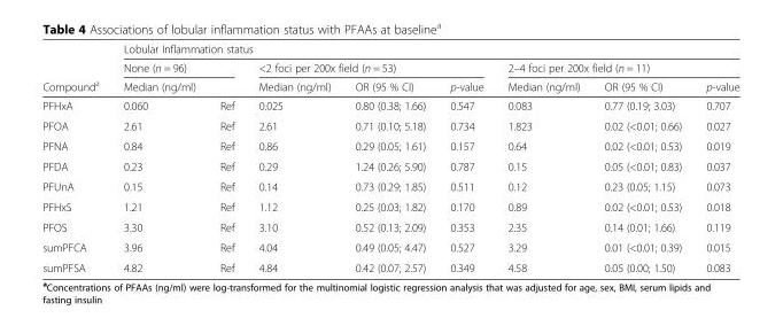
<table><thead><tr><td rowspan="3">Compound<sup>a</sup></td><td colspan="8">Lobular Inflammation status</td></tr><tr><td colspan="2">None (n = 96)</td><td colspan="3">&lt;2 foci per 200x field (n = 53)</td><td colspan="3">2–4 foci per 200x field (n = 11)</td></tr><tr><td>Median (ng/ml)</td><td></td><td>Median (ng/ml)</td><td>OR (95 % CI)</td><td>p-value</td><td>Median (ng/ml)</td><td>OR (95 % CI)</td><td>p-value</td></tr></thead><tbody><tr><td>PFHxA</td><td>0.060</td><td>Ref</td><td>0.025</td><td>0.80 (0.38; 1.66)</td><td>0.547</td><td>0.083</td><td>0.77 (0.19; 3.03)</td><td>0.707</td></tr><tr><td>PFOA</td><td>2.61</td><td>Ref</td><td>2.61</td><td>0.71 (0.10; 5.18)</td><td>0.734</td><td>1.823</td><td>0.02 (&lt;0.01; 0.66)</td><td>0.027</td></tr><tr><td>PFNA</td><td>0.84</td><td>Ref</td><td>0.86</td><td>0.29 (0.05; 1.61)</td><td>0.157</td><td>0.64</td><td>0.02 (&lt;0.01; 0.53)</td><td>0.019</td></tr><tr><td>PFDA</td><td>0.23</td><td>Ref</td><td>0.29</td><td>1.24 (0.26; 5.90)</td><td>0.787</td><td>0.15</td><td>0.05 (&lt;0.01; 0.83)</td><td>0.037</td></tr><tr><td>PFUnA</td><td>0.15</td><td>Ref</td><td>0.14</td><td>0.73 (0.29; 1.85)</td><td>0.511</td><td>0.12</td><td>0.23 (0.05; 1.15)</td><td>0.073</td></tr><tr><td>PFHxS</td><td>1.21</td><td>Ref</td><td>1.12</td><td>0.25 (0.03; 1.82)</td><td>0.170</td><td>0.89</td><td>0.02 (&lt;0.01; 0.53)</td><td>0.018</td></tr><tr><td>PFOS</td><td>3.30</td><td>Ref</td><td>3.10</td><td>0.52 (0.13; 2.09)</td><td>0.353</td><td>2.35</td><td>0.14 (0.01; 1.66)</td><td>0.119</td></tr><tr><td>sumPFCA</td><td>3.96</td><td>Ref</td><td>4.04</td><td>0.49 (0.05; 4.47)</td><td>0.527</td><td>3.29</td><td>0.01 (&lt;0.01; 0.39)</td><td>0.015</td></tr><tr><td>sumPFSA</td><td>4.82</td><td>Ref</td><td>4.84</td><td>0.42 (0.07; 2.57)</td><td>0.349</td><td>4.58</td><td>0.05 (0.00; 1.50)</td><td>0.083</td></tr></tbody></table>